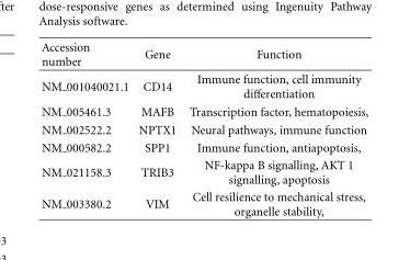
<table><thead><tr><td>Accession number</td><td>Gene</td><td>Function</td></tr></thead><tbody><tr><td>NM 001040021.1</td><td>CD14</td><td>Immune function, cell immunity differentiation</td></tr><tr><td>NM 005461.3</td><td>MAFB</td><td>Transcription factor, hematopoiesis,</td></tr><tr><td>NM 002522.2</td><td>NPTX1</td><td>Neural pathways, immune function</td></tr><tr><td>NM 000582.2</td><td>SPP1</td><td>Immune function, antiapoptosis,</td></tr><tr><td>NM 021158.3</td><td>TRIB3</td><td>NF-kappa B signalling, AKT 1 signalling, apoptosis</td></tr><tr><td>NM 003380.2</td><td>VIM</td><td>Cell resilience to mechanical stress, organelle stability,</td></tr></tbody></table>